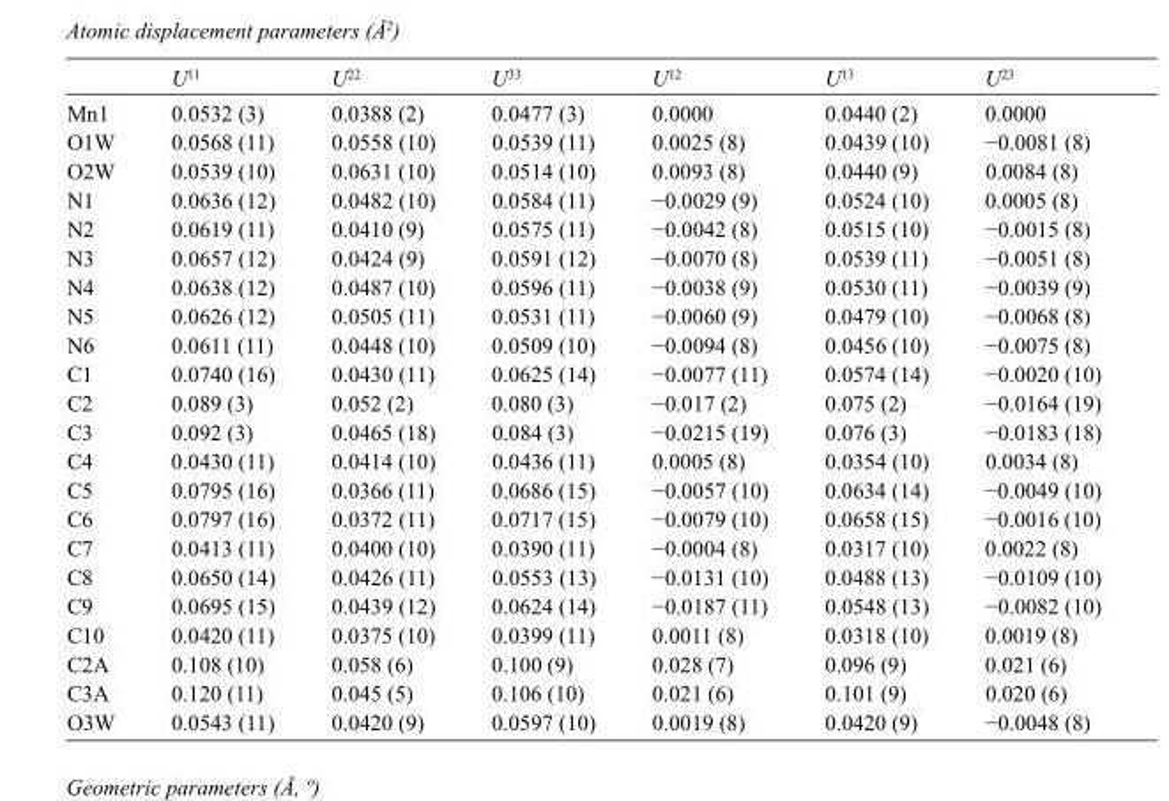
<table><thead><tr><td></td><td>U<sup>11</sup></td><td>U<sup>22</sup></td><td>U<sup>33</sup></td><td>U<sup>12</sup></td><td>U<sup>13</sup></td><td>U<sup>23</sup></td></tr></thead><tbody><tr><td>Mn1</td><td>0.0532 (3)</td><td>0.0388 (2)</td><td>0.0477 (3)</td><td>0.0000</td><td>0.0440 (2)</td><td>0.0000</td></tr><tr><td>O1W</td><td>0.0568 (11)</td><td>0.0558 (10)</td><td>0.0539 (11)</td><td>0.0025 (8)</td><td>0.0439 (10)</td><td>−0.0081 (8)</td></tr><tr><td>O2W</td><td>0.0539 (10)</td><td>0.0631 (10)</td><td>0.0514 (10)</td><td>0.0093 (8)</td><td>0.0440 (9)</td><td>0.0084 (8)</td></tr><tr><td>N1</td><td>0.0636 (12)</td><td>0.0482 (10)</td><td>0.0584 (11)</td><td>−0.0029 (9)</td><td>0.0524 (10)</td><td>0.0005 (8)</td></tr><tr><td>N2</td><td>0.0619 (11)</td><td>0.0410 (9)</td><td>0.0575 (11)</td><td>−0.0042 (8)</td><td>0.0515 (10)</td><td>−0.0015 (8)</td></tr><tr><td>N3</td><td>0.0657 (12)</td><td>0.0424 (9)</td><td>0.0591 (12)</td><td>−0.0070 (8)</td><td>0.0539 (11)</td><td>−0.0051 (8)</td></tr><tr><td>N4</td><td>0.0638 (12)</td><td>0.0487 (10)</td><td>0.0596 (11)</td><td>−0.0038 (9)</td><td>0.0530 (11)</td><td>−0.0039 (9)</td></tr><tr><td>N5</td><td>0.0626 (12)</td><td>0.0505 (11)</td><td>0.0531 (11)</td><td>−0.0060 (9)</td><td>0.0479 (10)</td><td>−0.0068 (8)</td></tr><tr><td>N6</td><td>0.0611 (11)</td><td>0.0448 (10)</td><td>0.0509 (10)</td><td>−0.0094 (8)</td><td>0.0456 (10)</td><td>−0.0075 (8)</td></tr><tr><td>C1</td><td>0.0740 (16)</td><td>0.0430 (11)</td><td>0.0625 (14)</td><td>−0.0077 (11)</td><td>0.0574 (14)</td><td>−0.0020 (10)</td></tr><tr><td>C2</td><td>0.089 (3)</td><td>0.052 (2)</td><td>0.080 (3)</td><td>−0.017 (2)</td><td>0.075 (2)</td><td>−0.0164 (19)</td></tr><tr><td>C3</td><td>0.092 (3)</td><td>0.0465 (18)</td><td>0.084 (3)</td><td>−0.0215 (19)</td><td>0.076 (3)</td><td>−0.0183 (18)</td></tr><tr><td>C4</td><td>0.0430 (11)</td><td>0.0414 (10)</td><td>0.0436 (11)</td><td>0.0005 (8)</td><td>0.0354 (10)</td><td>0.0034 (8)</td></tr><tr><td>C5</td><td>0.0795 (16)</td><td>0.0366 (11)</td><td>0.0686 (15)</td><td>−0.0057 (10)</td><td>0.0634 (14)</td><td>−0.0049 (10)</td></tr><tr><td>C6</td><td>0.0797 (16)</td><td>0.0372 (11)</td><td>0.0717 (15)</td><td>−0.0079 (10)</td><td>0.0658 (15)</td><td>−0.0016 (10)</td></tr><tr><td>C7</td><td>0.0413 (11)</td><td>0.0400 (10)</td><td>0.0390 (11)</td><td>−0.0004 (8)</td><td>0.0317 (10)</td><td>0.0022 (8)</td></tr><tr><td>C8</td><td>0.0650 (14)</td><td>0.0426 (11)</td><td>0.0553 (13)</td><td>−0.0131 (10)</td><td>0.0488 (13)</td><td>−0.0109 (10)</td></tr><tr><td>C9</td><td>0.0695 (15)</td><td>0.0439 (12)</td><td>0.0624 (14)</td><td>−0.0187 (11)</td><td>0.0548 (13)</td><td>−0.0082 (10)</td></tr><tr><td>C10</td><td>0.0420 (11)</td><td>0.0375 (10)</td><td>0.0399 (11)</td><td>0.0011 (8)</td><td>0.0318 (10)</td><td>0.0019 (8)</td></tr><tr><td>C2A</td><td>0.108 (10)</td><td>0.058 (6)</td><td>0.100 (9)</td><td>0.028 (7)</td><td>0.096 (9)</td><td>0.021 (6)</td></tr><tr><td>C3A</td><td>0.120 (11)</td><td>0.045 (5)</td><td>0.106 (10)</td><td>0.021 (6)</td><td>0.101 (9)</td><td>0.020 (6)</td></tr><tr><td>O3W</td><td>0.0543 (11)</td><td>0.0420 (9)</td><td>0.0597 (10)</td><td>0.0019 (8)</td><td>0.0420 (9)</td><td>−0.0048 (8)</td></tr></tbody></table>